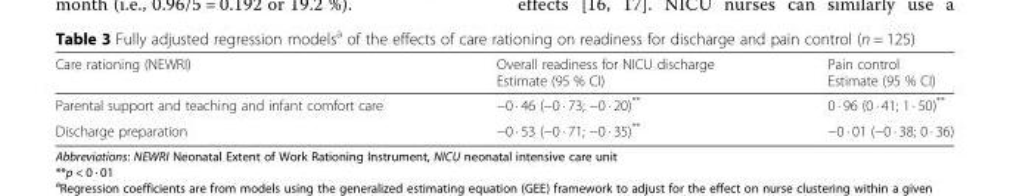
<table><thead><tr><td>Care rationing (NEWRI)</td><td>Overall readiness for NICU discharge Estimate (95 % CI)</td><td>Pain control Estimate (95 % CI)</td></tr></thead><tbody><tr><td>Parental support and teaching and infant comfort care</td><td>−0 · 46 (−0 · 73; −0 · 20)**</td><td>0 · 96 (0 · 41; 1 · 50)**</td></tr><tr><td>Discharge preparation</td><td>−0 · 53 (−0 · 71; −0 · 35)**</td><td>−0 · 01 (−0 · 38; 0 · 36)</td></tr></tbody></table>